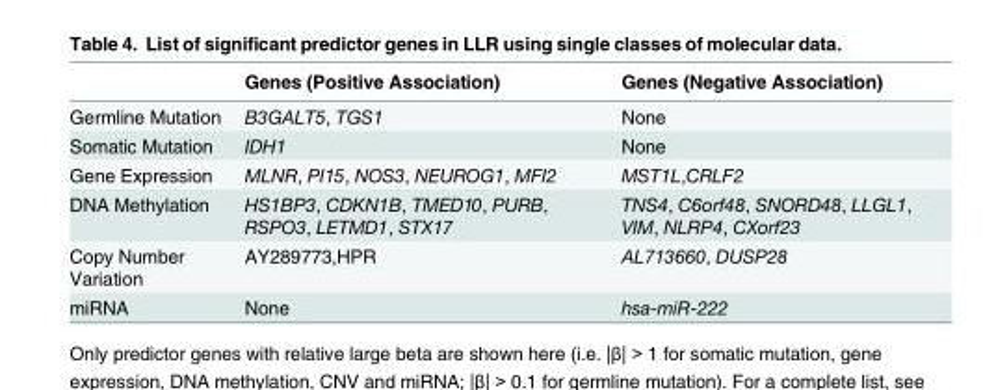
<table><thead><tr><td></td><td>Genes (Positive Association)</td><td>Genes (Negative Association)</td></tr></thead><tbody><tr><td>Germline Mutation</td><td>B3GALT5, TGS1</td><td>None</td></tr><tr><td>Somatic Mutation</td><td>IDH1</td><td>None</td></tr><tr><td>Gene Expression</td><td>MLNR, PI15, NOS3, NEUROG1, MFI2</td><td>MST1L,CRLF2</td></tr><tr><td>DNA Methylation</td><td>HS1BP3, CDKN1B, TMED10, PURB, RSPO3, LETMD1, STX17</td><td>TNS4, C6orf48, SNORD48, LLGL1, VIM, NLRP4, CXorf23</td></tr><tr><td>Copy Number Variation</td><td>AY289773,HPR</td><td>AL713660, DUSP28</td></tr><tr><td>miRNA</td><td>None</td><td>hsa-miR-222</td></tr></tbody></table>